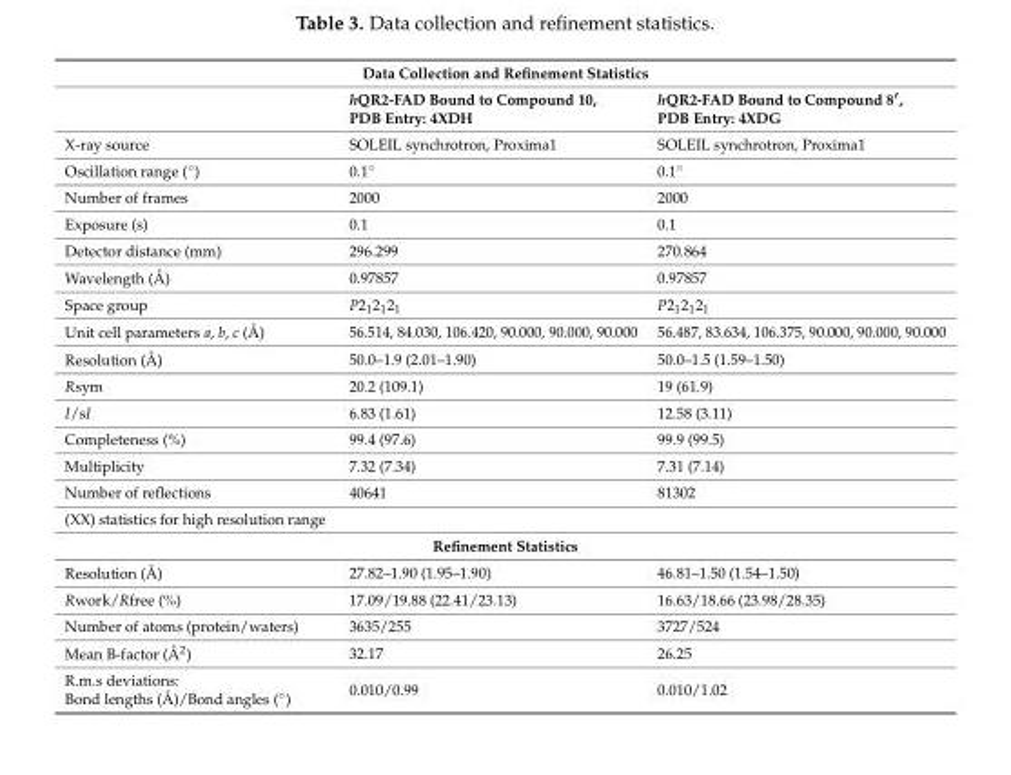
<table><thead><tr><td colspan="3">Data Collection and Refinement Statistics</td></tr><tr><td></td><td>hQR2-FAD Bound to Compound 10, PDB Entry: 4XDH</td><td>hQR2-FAD Bound to Compound 8′, PDB Entry: 4XDG</td></tr></thead><tbody><tr><td>X-ray source</td><td>SOLEIL synchrotron, Proxima1</td><td>SOLEIL synchrotron, Proxima1</td></tr><tr><td>Oscillation range (◦)</td><td>0.1◦</td><td>0.1◦</td></tr><tr><td>Number of frames</td><td>2000</td><td>2000</td></tr><tr><td>Exposure (s)</td><td>0.1</td><td>0.1</td></tr><tr><td>Detector distance (mm)</td><td>296.299</td><td>270.864</td></tr><tr><td>Wavelength (Å)</td><td>0.97857</td><td>0.97857</td></tr><tr><td>Space group</td><td>P2<sub>1</sub>2<sub>1</sub>2<sub>1</sub></td><td>P2<sub>1</sub>2<sub>1</sub>2<sub>1</sub></td></tr><tr><td>Unit cell parameters a, b, c (Å)</td><td>56.514, 84.030, 106.420, 90.000, 90.000, 90.000</td><td>56.487, 83.634, 106.375, 90.000, 90.000, 90.000</td></tr><tr><td>Resolution (Å)</td><td>50.0–1.9 (2.01–1.90)</td><td>50.0–1.5 (1.59–1.50)</td></tr><tr><td>Rsym</td><td>20.2 (109.1)</td><td>19 (61.9)</td></tr><tr><td>I/sI</td><td>6.83 (1.61)</td><td>12.58 (3.11)</td></tr><tr><td>Completeness (%)</td><td>99.4 (97.6)</td><td>99.9 (99.5)</td></tr><tr><td>Multiplicity</td><td>7.32 (7.34)</td><td>7.31 (7.14)</td></tr><tr><td>Number of reflections</td><td>40641</td><td>81302</td></tr><tr><td colspan="3">(XX) statistics for high resolution range</td></tr><tr><td colspan="3">Refinement Statistics</td></tr><tr><td>Resolution (Å)</td><td>27.82–1.90 (1.95–1.90)</td><td>46.81–1.50 (1.54–1.50)</td></tr><tr><td>Rwork/Rfree (%)</td><td>17.09/19.88 (22.41/23.13)</td><td>16.63/18.66 (23.98/28.35)</td></tr><tr><td>Number of atoms (protein/waters)</td><td>3635/255</td><td>3727/524</td></tr><tr><td>Mean B-factor (Å<sup>2</sup>)</td><td>32.17</td><td>26.25</td></tr><tr><td>R.m.s deviations: Bond lengths (Å)/Bond angles (◦)</td><td>0.010/0.99</td><td>0.010/1.02</td></tr></tbody></table>